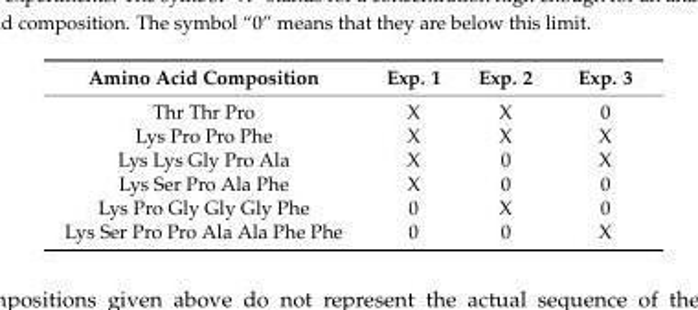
<table><thead><tr><td>Amino Acid Composition</td><td>Exp. 1</td><td>Exp. 2</td><td>Exp. 3</td></tr></thead><tbody><tr><td>Thr Thr Pro</td><td>X</td><td>X</td><td>0</td></tr><tr><td>Lys Pro Pro Phe</td><td>X</td><td>X</td><td>X</td></tr><tr><td>Lys Lys Gly Pro Ala</td><td>X</td><td>0</td><td>X</td></tr><tr><td>Lys Ser Pro Ala Phe</td><td>X</td><td>0</td><td>0</td></tr><tr><td>Lys Pro Gly Gly Gly Phe</td><td>0</td><td>X</td><td>0</td></tr><tr><td>Lys Ser Pro Pro Ala Ala Phe Phe</td><td>0</td><td>0</td><td>X</td></tr></tbody></table>